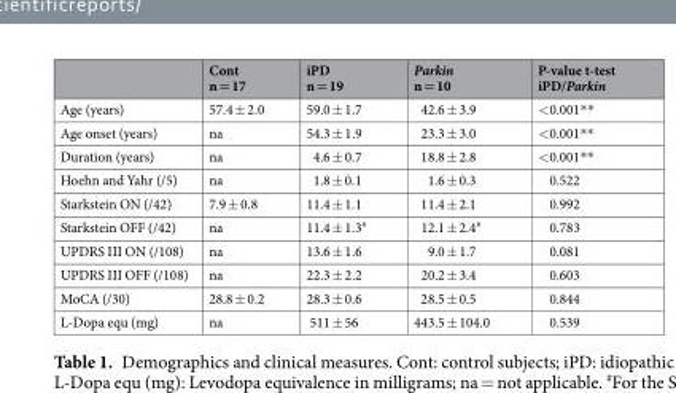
<table><thead><tr><td></td><td>Cont n = 17</td><td>iPD n = 19</td><td>Parkin n = 10</td><td>P-value t-test iPD/Parkin</td></tr></thead><tbody><tr><td>Age (years)</td><td>57.4 ± 2.0</td><td>59.0 ± 1.7</td><td>42.6 ± 3.9</td><td>&lt;0.001**</td></tr><tr><td>Age onset (years)</td><td>na</td><td>54.3 ± 1.9</td><td>23.3 ± 3.0</td><td>&lt;0.001**</td></tr><tr><td>Duration (years)</td><td>na</td><td>4.6 ± 0.7</td><td>18.8 ± 2.8</td><td>&lt;0.001**</td></tr><tr><td>Hoehn and Yahr (/5)</td><td>na</td><td>1.8 ± 0.1</td><td>1.6 ± 0.3</td><td>0.522</td></tr><tr><td>Starkstein ON (/42)</td><td>7.9 ± 0.8</td><td>11.4 ± 1.1</td><td>11.4 ± 2.1</td><td>0.992</td></tr><tr><td>Starkstein OFF (/42)</td><td>na</td><td>11.4 ± 1.3<sup>#</sup></td><td>12.1 ± 2.4<sup>#</sup></td><td>0.783</td></tr><tr><td>UPDRS III ON (/108)</td><td>na</td><td>13.6 ± 1.6</td><td>9.0 ± 1.7</td><td>0.081</td></tr><tr><td>UPDRS III OFF (/108)</td><td>na</td><td>22.3 ± 2.2</td><td>20.2 ± 3.4</td><td>0.603</td></tr><tr><td>MoCA (/30)</td><td>28.8 ± 0.2</td><td>28.3 ± 0.6</td><td>28.5 ± 0.5</td><td>0.844</td></tr><tr><td>L-Dopa equ (mg)</td><td>na</td><td>511 ± 56</td><td>443.5 ± 104.0</td><td>0.539</td></tr></tbody></table>